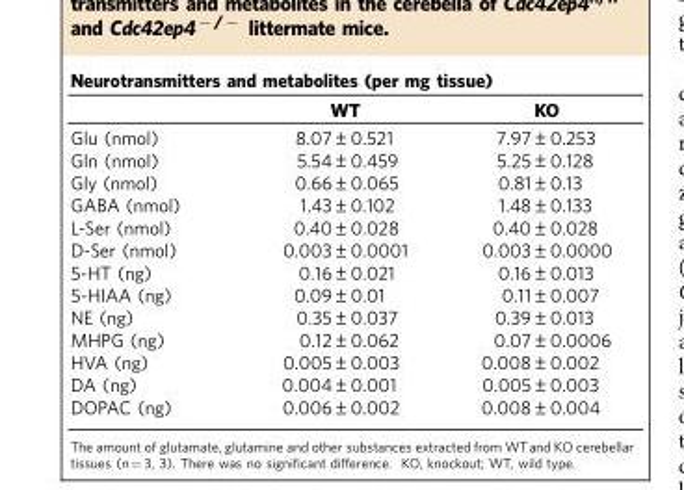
<table><thead><tr><td colspan="3">Neurotransmitters and metabolites (per mg tissue)</td></tr><tr><td></td><td>WT</td><td>KO</td></tr></thead><tbody><tr><td>Glu (nmol)</td><td>8.07±0.521</td><td>7.97±0.253</td></tr><tr><td>Gln (nmol)</td><td>5.54±0.459</td><td>5.25±0.128</td></tr><tr><td>Gly (nmol)</td><td>0.66±0.065</td><td>0.81±0.13</td></tr><tr><td>GABA (nmol)</td><td>1.43±0.102</td><td>1.48±0.133</td></tr><tr><td>L-Ser (nmol)</td><td>0.40±0.028</td><td>0.40±0.028</td></tr><tr><td>D-Ser (nmol)</td><td>0.003±0.0001</td><td>0.003±0.0000</td></tr><tr><td>5-HT (ng)</td><td>0.16±0.021</td><td>0.16±0.013</td></tr><tr><td>5-HIAA (ng)</td><td>0.09±0.01</td><td>0.11±0.007</td></tr><tr><td>NE (ng)</td><td>0.35±0.037</td><td>0.39±0.013</td></tr><tr><td>MHPG (ng)</td><td>0.12±0.062</td><td>0.07±0.0006</td></tr><tr><td>HVA (ng)</td><td>0.005±0.003</td><td>0.008±0.002</td></tr><tr><td>DA (ng)</td><td>0.004±0.001</td><td>0.005±0.003</td></tr><tr><td>DOPAC (ng)</td><td>0.006±0.002</td><td>0.008±0.004</td></tr></tbody></table>